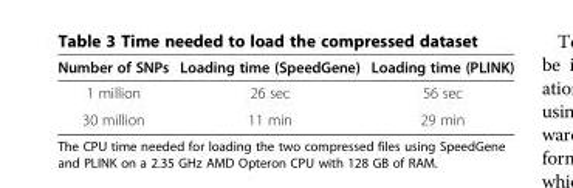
<table><thead><tr><td>Number of SNPs</td><td>Loading time (SpeedGene)</td><td>Loading time (PLINK)</td></tr></thead><tbody><tr><td>1 million</td><td>26 sec</td><td>56 sec</td></tr><tr><td>30 million</td><td>11 min</td><td>29 min</td></tr></tbody></table>